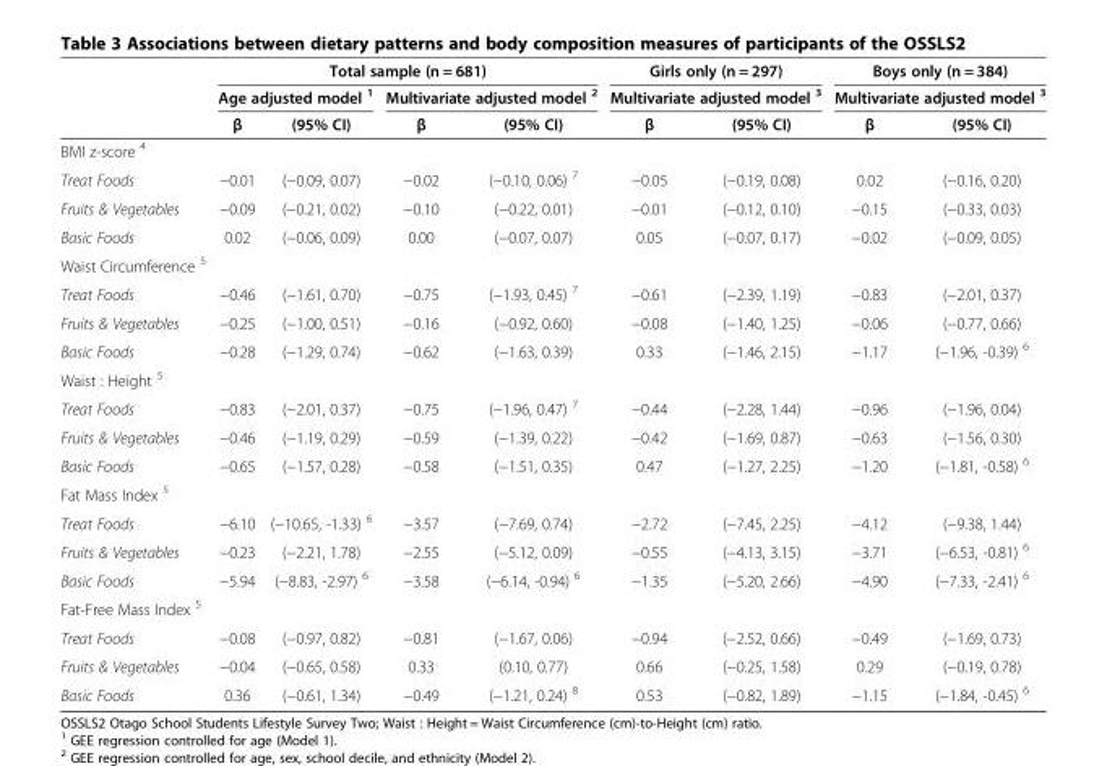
<table><thead><tr><td rowspan="3"></td><td colspan="4">Total sample (n = 681)</td><td rowspan="2" colspan="2">Girls only (n = 297) Multivariate adjusted model <sup>3</sup></td><td rowspan="2" colspan="2">Boys only (n = 384) Multivariate adjusted model <sup>3</sup></td></tr><tr><td colspan="2">Age adjusted model <sup>1</sup></td><td colspan="2">Multivariate adjusted model <sup>2</sup></td></tr><tr><td>β</td><td>(95% CI)</td><td>β</td><td>(95% CI)</td><td>β</td><td>(95% CI)</td><td>β</td><td>(95% CI)</td></tr></thead><tbody><tr><td colspan="9">BMI z-score <sup>4</sup></td></tr><tr><td>Treat Foods</td><td>−0.01</td><td>(−0.09, 0.07)</td><td>−0.02</td><td>(−0.10, 0.06) <sup>7</sup></td><td>−0.05</td><td>(−0.19, 0.08)</td><td>0.02</td><td>(−0.16, 0.20)</td></tr><tr><td>Fruits &amp; Vegetables</td><td>−0.09</td><td>(−0.21, 0.02)</td><td>−0.10</td><td>(−0.22, 0.01)</td><td>−0.01</td><td>(−0.12, 0.10)</td><td>−0.15</td><td>(−0.33, 0.03)</td></tr><tr><td>Basic Foods</td><td>0.02</td><td>(−0.06, 0.09)</td><td>0.00</td><td>(−0.07, 0.07)</td><td>0.05</td><td>(−0.07, 0.17)</td><td>−0.02</td><td>(−0.09, 0.05)</td></tr><tr><td colspan="9">Waist Circumference <sup>5</sup></td></tr><tr><td>Treat Foods</td><td>−0.46</td><td>(−1.61, 0.70)</td><td>−0.75</td><td>(−1.93, 0.45) <sup>7</sup></td><td>−0.61</td><td>(−2.39, 1.19)</td><td>−0.83</td><td>(−2.01, 0.37)</td></tr><tr><td>Fruits &amp; Vegetables</td><td>−0.25</td><td>(−1.00, 0.51)</td><td>−0.16</td><td>(−0.92, 0.60)</td><td>−0.08</td><td>(−1.40, 1.25)</td><td>−0.06</td><td>(−0.77, 0.66)</td></tr><tr><td>Basic Foods</td><td>−0.28</td><td>(−1.29, 0.74)</td><td>−0.62</td><td>(−1.63, 0.39)</td><td>0.33</td><td>(−1.46, 2.15)</td><td>−1.17</td><td>(−1.96, -0.39) <sup>6</sup></td></tr><tr><td colspan="9">Waist : Height <sup>5</sup></td></tr><tr><td>Treat Foods</td><td>−0.83</td><td>(−2.01, 0.37)</td><td>−0.75</td><td>(−1.96, 0.47) <sup>7</sup></td><td>−0.44</td><td>(−2.28, 1.44)</td><td>−0.96</td><td>(−1.96, 0.04)</td></tr><tr><td>Fruits &amp; Vegetables</td><td>−0.46</td><td>(−1.19, 0.29)</td><td>−0.59</td><td>(−1.39, 0.22)</td><td>−0.42</td><td>(−1.69, 0.87)</td><td>−0.63</td><td>(−1.56, 0.30)</td></tr><tr><td>Basic Foods</td><td>−0.65</td><td>(−1.57, 0.28)</td><td>−0.58</td><td>(−1.51, 0.35)</td><td>0.47</td><td>(−1.27, 2.25)</td><td>−1.20</td><td>(−1.81, -0.58) <sup>6</sup></td></tr><tr><td colspan="9">Fat Mass Index <sup>5</sup></td></tr><tr><td>Treat Foods</td><td>−6.10</td><td>(−10.65, -1.33) <sup>6</sup></td><td>−3.57</td><td>(−7.69, 0.74)</td><td>−2.72</td><td>(−7.45, 2.25)</td><td>−4.12</td><td>(−9.38, 1.44)</td></tr><tr><td>Fruits &amp; Vegetables</td><td>−0.23</td><td>(−2.21, 1.78)</td><td>−2.55</td><td>(−5.12, 0.09)</td><td>−0.55</td><td>(−4.13, 3.15)</td><td>−3.71</td><td>(−6.53, -0.81) <sup>6</sup></td></tr><tr><td>Basic Foods</td><td>−5.94</td><td>(−8.83, -2.97) <sup>6</sup></td><td>−3.58</td><td>(−6.14, -0.94) <sup>6</sup></td><td>−1.35</td><td>(−5.20, 2.66)</td><td>−4.90</td><td>(−7.33, -2.41) <sup>6</sup></td></tr><tr><td colspan="9">Fat-Free Mass Index <sup>5</sup></td></tr><tr><td>Treat Foods</td><td>−0.08</td><td>(−0.97, 0.82)</td><td>−0.81</td><td>(−1.67, 0.06)</td><td>−0.94</td><td>(−2.52, 0.66)</td><td>−0.49</td><td>(−1.69, 0.73)</td></tr><tr><td>Fruits &amp; Vegetables</td><td>−0.04</td><td>(−0.65, 0.58)</td><td>0.33</td><td>(0.10, 0.77)</td><td>0.66</td><td>(−0.25, 1.58)</td><td>0.29</td><td>(−0.19, 0.78)</td></tr><tr><td>Basic Foods</td><td>0.36</td><td>(−0.61, 1.34)</td><td>−0.49</td><td>(−1.21, 0.24) <sup>8</sup></td><td>0.53</td><td>(−0.82, 1.89)</td><td>−1.15</td><td>(−1.84, -0.45) <sup>6</sup></td></tr></tbody></table>